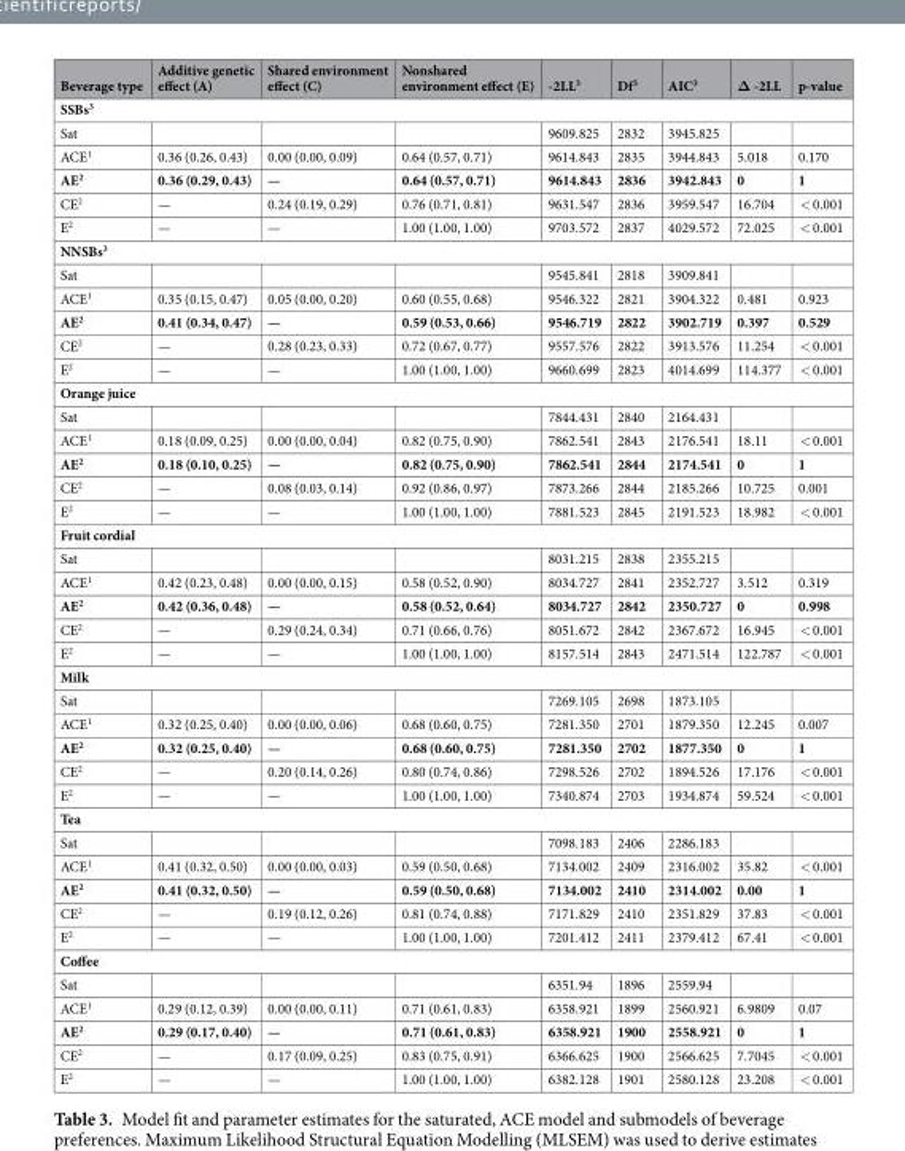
<table><thead><tr><td>Beverage type</td><td>Additive genetic effect (A)</td><td>Shared environment effect (C)</td><td>Nonshared environment effect (E)</td><td>-2LL<sup>3</sup></td><td>Df<sup>3</sup></td><td>AIC<sup>3</sup></td><td>Δ -2LL</td><td>p-value</td></tr></thead><tbody><tr><td colspan="9">SSBs<sup>3</sup></td></tr><tr><td>Sat</td><td></td><td></td><td></td><td>9609.825</td><td>2832</td><td>3945.825</td><td></td><td></td></tr><tr><td>ACE<sup>1</sup></td><td>0.36 (0.26, 0.43)</td><td>0.00 (0.00, 0.09)</td><td>0.64 (0.57, 0.71)</td><td>9614.843</td><td>2835</td><td>3944.843</td><td>5.018</td><td>0.170</td></tr><tr><td>AE<sup>2</sup></td><td>0.36 (0.29, 0.43)</td><td>—</td><td>0.64 (0.57, 0.71)</td><td>9614.843</td><td>2836</td><td>3942.843</td><td>0</td><td>1</td></tr><tr><td>CE<sup>2</sup></td><td>—</td><td>0.24 (0.19, 0.29)</td><td>0.76 (0.71, 0.81)</td><td>9631.547</td><td>2836</td><td>3959.547</td><td>16.704</td><td>&lt; 0.001</td></tr><tr><td>E<sup>2</sup></td><td>—</td><td>—</td><td>1.00 (1.00, 1.00)</td><td>9703.572</td><td>2837</td><td>4029.572</td><td>72.025</td><td>&lt; 0.001</td></tr><tr><td colspan="9">NNSBs<sup>3</sup></td></tr><tr><td>Sat</td><td></td><td></td><td></td><td>9545.841</td><td>2818</td><td>3909.841</td><td></td><td></td></tr><tr><td>ACE<sup>1</sup></td><td>0.35 (0.15, 0.47)</td><td>0.05 (0.00, 0.20)</td><td>0.60 (0.55, 0.68)</td><td>9546.322</td><td>2821</td><td>3904.322</td><td>0.481</td><td>0.923</td></tr><tr><td>AE<sup>2</sup></td><td>0.41 (0.34, 0.47)</td><td>—</td><td>0.59 (0.53, 0.66)</td><td>9546.719</td><td>2822</td><td>3902.719</td><td>0.397</td><td>0.529</td></tr><tr><td>CE<sup>2</sup></td><td>—</td><td>0.28 (0.23, 0.33)</td><td>0.72 (0.67, 0.77)</td><td>9557.576</td><td>2822</td><td>3913.576</td><td>11.254</td><td>&lt; 0.001</td></tr><tr><td>E<sup>2</sup></td><td>—</td><td>—</td><td>1.00 (1.00, 1.00)</td><td>9660.699</td><td>2823</td><td>4014.699</td><td>114.377</td><td>&lt; 0.001</td></tr><tr><td colspan="9">Orange juice</td></tr><tr><td>Sat</td><td></td><td></td><td></td><td>7844.431</td><td>2840</td><td>2164.431</td><td></td><td></td></tr><tr><td>ACE<sup>1</sup></td><td>0.18 (0.09, 0.25)</td><td>0.00 (0.00, 0.04)</td><td>0.82 (0.75, 0.90)</td><td>7862.541</td><td>2843</td><td>2176.541</td><td>18.11</td><td>&lt; 0.001</td></tr><tr><td>AE<sup>2</sup></td><td>0.18 (0.10, 0.25)</td><td>—</td><td>0.82 (0.75, 0.90)</td><td>7862.541</td><td>2844</td><td>2174.541</td><td>0</td><td>1</td></tr><tr><td>CE<sup>2</sup></td><td>—</td><td>0.08 (0.03, 0.14)</td><td>0.92 (0.86, 0.97)</td><td>7873.266</td><td>2844</td><td>2185.266</td><td>10.725</td><td>0.001</td></tr><tr><td>E<sup>2</sup></td><td>—</td><td>—</td><td>1.00 (1.00, 1.00)</td><td>7881.523</td><td>2845</td><td>2191.523</td><td>18.982</td><td>&lt; 0.001</td></tr><tr><td colspan="9">Fruit cordial</td></tr><tr><td>Sat</td><td></td><td></td><td></td><td>8031.215</td><td>2838</td><td>2355.215</td><td></td><td></td></tr><tr><td>ACE<sup>1</sup></td><td>0.42 (0.23, 0.48)</td><td>0.00 (0.00, 0.15)</td><td>0.58 (0.52, 0.90)</td><td>8034.727</td><td>2841</td><td>2352.727</td><td>3.512</td><td>0.319</td></tr><tr><td>AE<sup>2</sup></td><td>0.42 (0.36, 0.48)</td><td>—</td><td>0.58 (0.52, 0.64)</td><td>8034.727</td><td>2842</td><td>2350.727</td><td>0</td><td>0.998</td></tr><tr><td>CE<sup>2</sup></td><td>—</td><td>0.29 (0.24, 0.34)</td><td>0.71 (0.66, 0.76)</td><td>8051.672</td><td>2842</td><td>2367.672</td><td>16.945</td><td>&lt; 0.001</td></tr><tr><td>E<sup>2</sup></td><td>—</td><td>—</td><td>1.00 (1.00, 1.00)</td><td>8157.514</td><td>2843</td><td>2471.514</td><td>122.787</td><td>&lt; 0.001</td></tr><tr><td colspan="9">Milk</td></tr><tr><td>Sat</td><td></td><td></td><td></td><td>7269.105</td><td>2698</td><td>1873.105</td><td></td><td></td></tr><tr><td>ACE<sup>1</sup></td><td>0.32 (0.25, 0.40)</td><td>0.00 (0.00, 0.06)</td><td>0.68 (0.60, 0.75)</td><td>7281.350</td><td>2701</td><td>1879.350</td><td>12.245</td><td>0.007</td></tr><tr><td>AE<sup>2</sup></td><td>0.32 (0.25, 0.40)</td><td>—</td><td>0.68 (0.60, 0.75)</td><td>7281.350</td><td>2702</td><td>1877.350</td><td>0</td><td>1</td></tr><tr><td>CE<sup>2</sup></td><td>—</td><td>0.20 (0.14, 0.26)</td><td>0.80 (0.74, 0.86)</td><td>7298.526</td><td>2702</td><td>1894.526</td><td>17.176</td><td>&lt; 0.001</td></tr><tr><td>E<sup>2</sup></td><td>—</td><td>—</td><td>1.00 (1.00, 1.00)</td><td>7340.874</td><td>2703</td><td>1934.874</td><td>59.524</td><td>&lt; 0.001</td></tr><tr><td colspan="9">Tea</td></tr><tr><td>Sat</td><td></td><td></td><td></td><td>7098.183</td><td>2406</td><td>2286.183</td><td></td><td></td></tr><tr><td>ACE<sup>1</sup></td><td>0.41 (0.32, 0.50)</td><td>0.00 (0.00, 0.03)</td><td>0.59 (0.50, 0.68)</td><td>7134.002</td><td>2409</td><td>2316.002</td><td>35.82</td><td>&lt; 0.001</td></tr><tr><td>AE<sup>2</sup></td><td>0.41 (0.32, 0.50)</td><td>—</td><td>0.59 (0.50, 0.68)</td><td>7134.002</td><td>2410</td><td>2314.002</td><td>0.00</td><td>1</td></tr><tr><td>CE<sup>2</sup></td><td>—</td><td>0.19 (0.12, 0.26)</td><td>0.81 (0.74, 0.88)</td><td>7171.829</td><td>2410</td><td>2351.829</td><td>37.83</td><td>&lt; 0.001</td></tr><tr><td>E<sup>2</sup></td><td>—</td><td>—</td><td>1.00 (1.00, 1.00)</td><td>7201.412</td><td>2411</td><td>2379.412</td><td>67.41</td><td>&lt; 0.001</td></tr><tr><td colspan="9">Coffee</td></tr><tr><td>Sat</td><td></td><td></td><td></td><td>6351.94</td><td>1896</td><td>2559.94</td><td></td><td></td></tr><tr><td>ACE<sup>1</sup></td><td>0.29 (0.12, 0.39)</td><td>0.00 (0.00, 0.11)</td><td>0.71 (0.61, 0.83)</td><td>6358.921</td><td>1899</td><td>2560.921</td><td>6.9809</td><td>0.07</td></tr><tr><td>AE<sup>2</sup></td><td>0.29 (0.17, 0.40)</td><td>—</td><td>0.71 (0.61, 0.83)</td><td>6358.921</td><td>1900</td><td>2558.921</td><td>0</td><td>1</td></tr><tr><td>CE<sup>2</sup></td><td>—</td><td>0.17 (0.09, 0.25)</td><td>0.83 (0.75, 0.91)</td><td>6366.625</td><td>1900</td><td>2566.625</td><td>7.7045</td><td>&lt; 0.001</td></tr><tr><td>E<sup>2</sup></td><td>—</td><td>—</td><td>1.00 (1.00, 1.00)</td><td>6382.128</td><td>1901</td><td>2580.128</td><td>23.208</td><td>&lt; 0.001</td></tr></tbody></table>